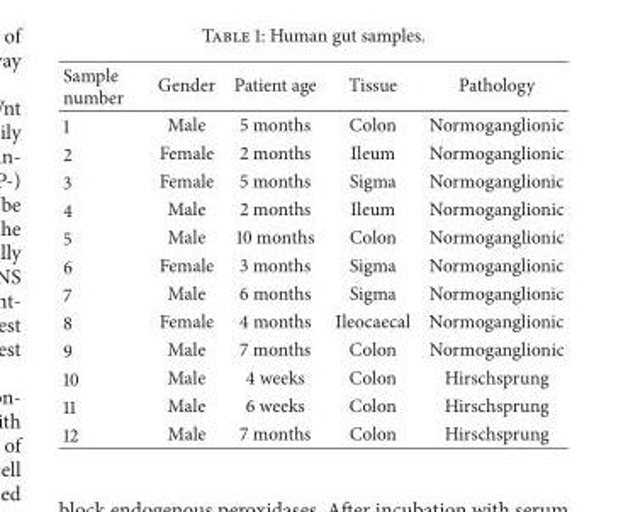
<table><thead><tr><td>Sample number</td><td>Gender</td><td>Patient age</td><td>Tissue</td><td>Pathology</td></tr></thead><tbody><tr><td>1</td><td>Male</td><td>5 months</td><td>Colon</td><td>Normoganglionic</td></tr><tr><td>2</td><td>Female</td><td>2 months</td><td>Ileum</td><td>Normoganglionic</td></tr><tr><td>3</td><td>Female</td><td>5 months</td><td>Sigma</td><td>Normoganglionic</td></tr><tr><td>4</td><td>Male</td><td>2 months</td><td>Ileum</td><td>Normoganglionic</td></tr><tr><td>5</td><td>Male</td><td>10 months</td><td>Colon</td><td>Normoganglionic</td></tr><tr><td>6</td><td>Female</td><td>3 months</td><td>Sigma</td><td>Normoganglionic</td></tr><tr><td>7</td><td>Male</td><td>6 months</td><td>Sigma</td><td>Normoganglionic</td></tr><tr><td>8</td><td>Female</td><td>4 months</td><td>Ileocaecal</td><td>Normoganglionic</td></tr><tr><td>9</td><td>Male</td><td>7 months</td><td>Colon</td><td>Normoganglionic</td></tr><tr><td>10</td><td>Male</td><td>4 weeks</td><td>Colon</td><td>Hirschsprung</td></tr><tr><td>11</td><td>Male</td><td>6 weeks</td><td>Colon</td><td>Hirschsprung</td></tr><tr><td>12</td><td>Male</td><td>7 months</td><td>Colon</td><td>Hirschsprung</td></tr></tbody></table>